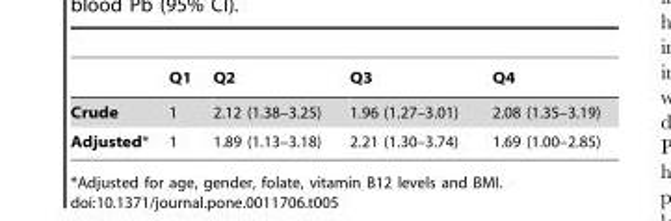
<table><thead><tr><td></td><td>Q1</td><td>Q2</td><td>Q3</td><td>Q4</td></tr></thead><tbody><tr><td>Crude</td><td>1</td><td>2.12 (1.38–3.25)</td><td>1.96 (1.27–3.01)</td><td>2.08 (1.35–3.19)</td></tr><tr><td>Adjusted*</td><td>1</td><td>1.89 (1.13–3.18)</td><td>2.21 (1.30–3.74)</td><td>1.69 (1.00–2.85)</td></tr></tbody></table>